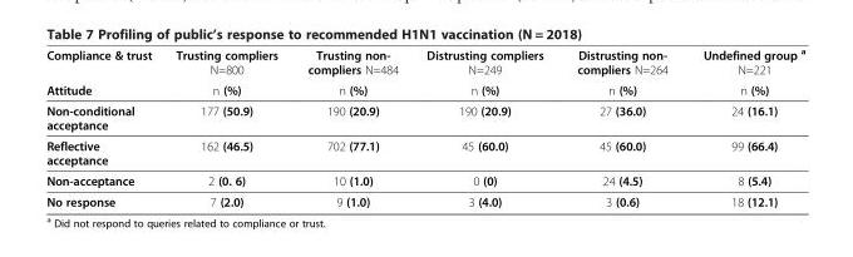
<table><thead><tr><td rowspan="2">Compliance &amp; trust Attitude</td><td rowspan="2">Trusting compliers N=800 n (%)</td><td rowspan="2">Trusting non- compliers N=484 n (%)</td><td rowspan="2">Distrusting compliers N=249 n (%)</td><td rowspan="2">Distrusting non- compliers N=264 n (%)</td><td rowspan="2">Undefined group <sup>a</sup> N=221 n (%)</td></tr><tr></tr></thead><tbody><tr><td>Non-conditional acceptance</td><td>177 (50.9)</td><td>190 (20.9)</td><td>190 (20.9)</td><td>27 (36.0)</td><td>24 (16.1)</td></tr><tr><td>Reflective acceptance</td><td>162 (46.5)</td><td>702 (77.1)</td><td>45 (60.0)</td><td>45 (60.0)</td><td>99 (66.4)</td></tr><tr><td>Non-acceptance</td><td>2 (0. 6)</td><td>10 (1.0)</td><td>0 (0)</td><td>24 (4.5)</td><td>8 (5.4)</td></tr><tr><td>No response</td><td>7 (2.0)</td><td>9 (1.0)</td><td>3 (4.0)</td><td>3 (0.6)</td><td>18 (12.1)</td></tr></tbody></table>